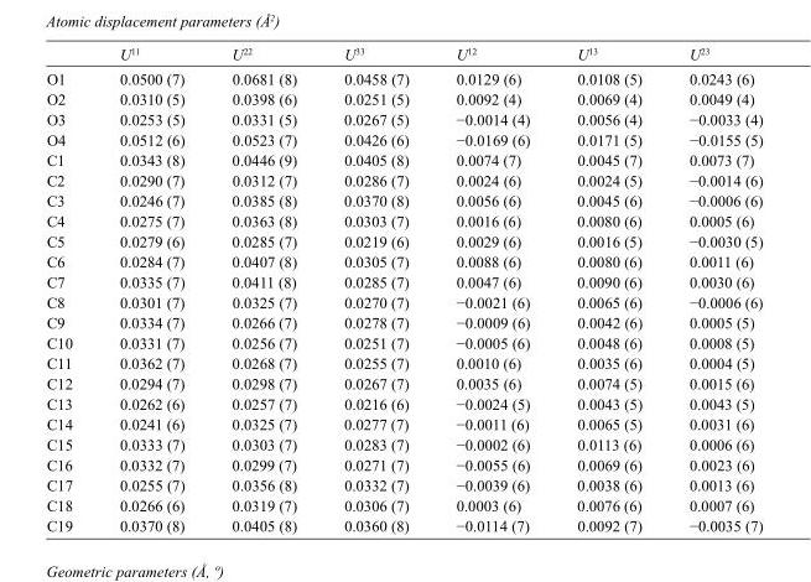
<table><thead><tr><td></td><td>U<sup>11</sup></td><td>U<sup>22</sup></td><td>U<sup>33</sup></td><td>U<sup>12</sup></td><td>U<sup>13</sup></td><td>U<sup>23</sup></td></tr></thead><tbody><tr><td>O1</td><td>0.0500 (7)</td><td>0.0681 (8)</td><td>0.0458 (7)</td><td>0.0129 (6)</td><td>0.0108 (5)</td><td>0.0243 (6)</td></tr><tr><td>O2</td><td>0.0310 (5)</td><td>0.0398 (6)</td><td>0.0251 (5)</td><td>0.0092 (4)</td><td>0.0069 (4)</td><td>0.0049 (4)</td></tr><tr><td>O3</td><td>0.0253 (5)</td><td>0.0331 (5)</td><td>0.0267 (5)</td><td>−0.0014 (4)</td><td>0.0056 (4)</td><td>−0.0033 (4)</td></tr><tr><td>O4</td><td>0.0512 (6)</td><td>0.0523 (7)</td><td>0.0426 (6)</td><td>−0.0169 (6)</td><td>0.0171 (5)</td><td>−0.0155 (5)</td></tr><tr><td>C1</td><td>0.0343 (8)</td><td>0.0446 (9)</td><td>0.0405 (8)</td><td>0.0074 (7)</td><td>0.0045 (7)</td><td>0.0073 (7)</td></tr><tr><td>C2</td><td>0.0290 (7)</td><td>0.0312 (7)</td><td>0.0286 (7)</td><td>0.0024 (6)</td><td>0.0024 (5)</td><td>−0.0014 (6)</td></tr><tr><td>C3</td><td>0.0246 (7)</td><td>0.0385 (8)</td><td>0.0370 (8)</td><td>0.0056 (6)</td><td>0.0045 (6)</td><td>−0.0006 (6)</td></tr><tr><td>C4</td><td>0.0275 (7)</td><td>0.0363 (8)</td><td>0.0303 (7)</td><td>0.0016 (6)</td><td>0.0080 (6)</td><td>0.0005 (6)</td></tr><tr><td>C5</td><td>0.0279 (6)</td><td>0.0285 (7)</td><td>0.0219 (6)</td><td>0.0029 (6)</td><td>0.0016 (5)</td><td>−0.0030 (5)</td></tr><tr><td>C6</td><td>0.0284 (7)</td><td>0.0407 (8)</td><td>0.0305 (7)</td><td>0.0088 (6)</td><td>0.0080 (6)</td><td>0.0011 (6)</td></tr><tr><td>C7</td><td>0.0335 (7)</td><td>0.0411 (8)</td><td>0.0285 (7)</td><td>0.0047 (6)</td><td>0.0090 (6)</td><td>0.0030 (6)</td></tr><tr><td>C8</td><td>0.0301 (7)</td><td>0.0325 (7)</td><td>0.0270 (7)</td><td>−0.0021 (6)</td><td>0.0065 (6)</td><td>−0.0006 (6)</td></tr><tr><td>C9</td><td>0.0334 (7)</td><td>0.0266 (7)</td><td>0.0278 (7)</td><td>−0.0009 (6)</td><td>0.0042 (6)</td><td>0.0005 (5)</td></tr><tr><td>C10</td><td>0.0331 (7)</td><td>0.0256 (7)</td><td>0.0251 (7)</td><td>−0.0005 (6)</td><td>0.0048 (6)</td><td>0.0008 (5)</td></tr><tr><td>C11</td><td>0.0362 (7)</td><td>0.0268 (7)</td><td>0.0255 (7)</td><td>0.0010 (6)</td><td>0.0035 (6)</td><td>0.0004 (5)</td></tr><tr><td>C12</td><td>0.0294 (7)</td><td>0.0298 (7)</td><td>0.0267 (7)</td><td>0.0035 (6)</td><td>0.0074 (5)</td><td>0.0015 (6)</td></tr><tr><td>C13</td><td>0.0262 (6)</td><td>0.0257 (7)</td><td>0.0216 (6)</td><td>−0.0024 (5)</td><td>0.0043 (5)</td><td>0.0043 (5)</td></tr><tr><td>C14</td><td>0.0241 (6)</td><td>0.0325 (7)</td><td>0.0277 (7)</td><td>−0.0011 (6)</td><td>0.0065 (5)</td><td>0.0031 (6)</td></tr><tr><td>C15</td><td>0.0333 (7)</td><td>0.0303 (7)</td><td>0.0283 (7)</td><td>−0.0002 (6)</td><td>0.0113 (6)</td><td>0.0006 (6)</td></tr><tr><td>C16</td><td>0.0332 (7)</td><td>0.0299 (7)</td><td>0.0271 (7)</td><td>−0.0055 (6)</td><td>0.0069 (6)</td><td>0.0023 (6)</td></tr><tr><td>C17</td><td>0.0255 (7)</td><td>0.0356 (8)</td><td>0.0332 (7)</td><td>−0.0039 (6)</td><td>0.0038 (6)</td><td>0.0013 (6)</td></tr><tr><td>C18</td><td>0.0266 (6)</td><td>0.0319 (7)</td><td>0.0306 (7)</td><td>0.0003 (6)</td><td>0.0076 (6)</td><td>0.0007 (6)</td></tr><tr><td>C19</td><td>0.0370 (8)</td><td>0.0405 (8)</td><td>0.0360 (8)</td><td>−0.0114 (7)</td><td>0.0092 (7)</td><td>−0.0035 (7)</td></tr></tbody></table>